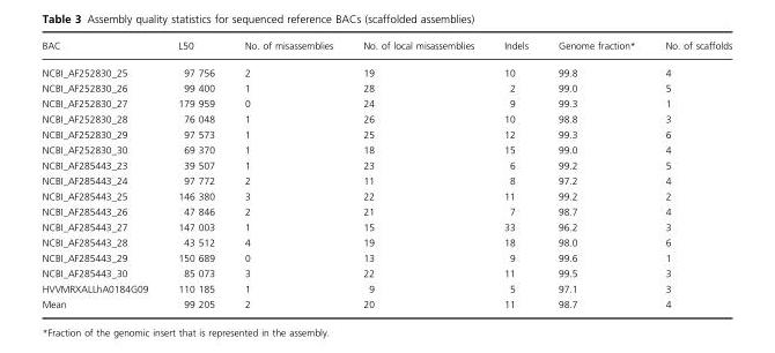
<table><thead><tr><td>BAC</td><td>L50</td><td>No. of misassemblies</td><td>No. of local misassemblies</td><td>Indels</td><td>Genome fraction*</td><td>No. of scaffolds</td></tr></thead><tbody><tr><td>NCBI_AF252830_25</td><td>97 756</td><td>2</td><td>19</td><td>10</td><td>99.8</td><td>4</td></tr><tr><td>NCBI_AF252830_26</td><td>99 400</td><td>1</td><td>28</td><td>2</td><td>99.0</td><td>5</td></tr><tr><td>NCBI_AF252830_27</td><td>179 959</td><td>0</td><td>24</td><td>9</td><td>99.3</td><td>1</td></tr><tr><td>NCBI_AF252830_28</td><td>76 048</td><td>1</td><td>26</td><td>10</td><td>98.8</td><td>3</td></tr><tr><td>NCBI_AF252830_29</td><td>97 573</td><td>1</td><td>25</td><td>12</td><td>99.3</td><td>6</td></tr><tr><td>NCBI_AF252830_30</td><td>69 370</td><td>1</td><td>18</td><td>15</td><td>99.0</td><td>4</td></tr><tr><td>NCBI_AF285443_23</td><td>39 507</td><td>1</td><td>23</td><td>6</td><td>99.2</td><td>5</td></tr><tr><td>NCBI_AF285443_24</td><td>97 772</td><td>2</td><td>11</td><td>8</td><td>97.2</td><td>4</td></tr><tr><td>NCBI_AF285443_25</td><td>146 380</td><td>3</td><td>22</td><td>11</td><td>99.2</td><td>2</td></tr><tr><td>NCBI_AF285443_26</td><td>47 846</td><td>2</td><td>21</td><td>7</td><td>98.7</td><td>4</td></tr><tr><td>NCBI_AF285443_27</td><td>147 003</td><td>1</td><td>15</td><td>33</td><td>96.2</td><td>3</td></tr><tr><td>NCBI_AF285443_28</td><td>43 512</td><td>4</td><td>19</td><td>18</td><td>98.0</td><td>6</td></tr><tr><td>NCBI_AF285443_29</td><td>150 689</td><td>0</td><td>13</td><td>9</td><td>99.6</td><td>1</td></tr><tr><td>NCBI_AF285443_30</td><td>85 073</td><td>3</td><td>22</td><td>11</td><td>99.5</td><td>3</td></tr><tr><td>HVVMRXALLhA0184G09</td><td>110 185</td><td>1</td><td>9</td><td>5</td><td>97.1</td><td>3</td></tr><tr><td>Mean</td><td>99 205</td><td>2</td><td>20</td><td>11</td><td>98.7</td><td>4</td></tr></tbody></table>